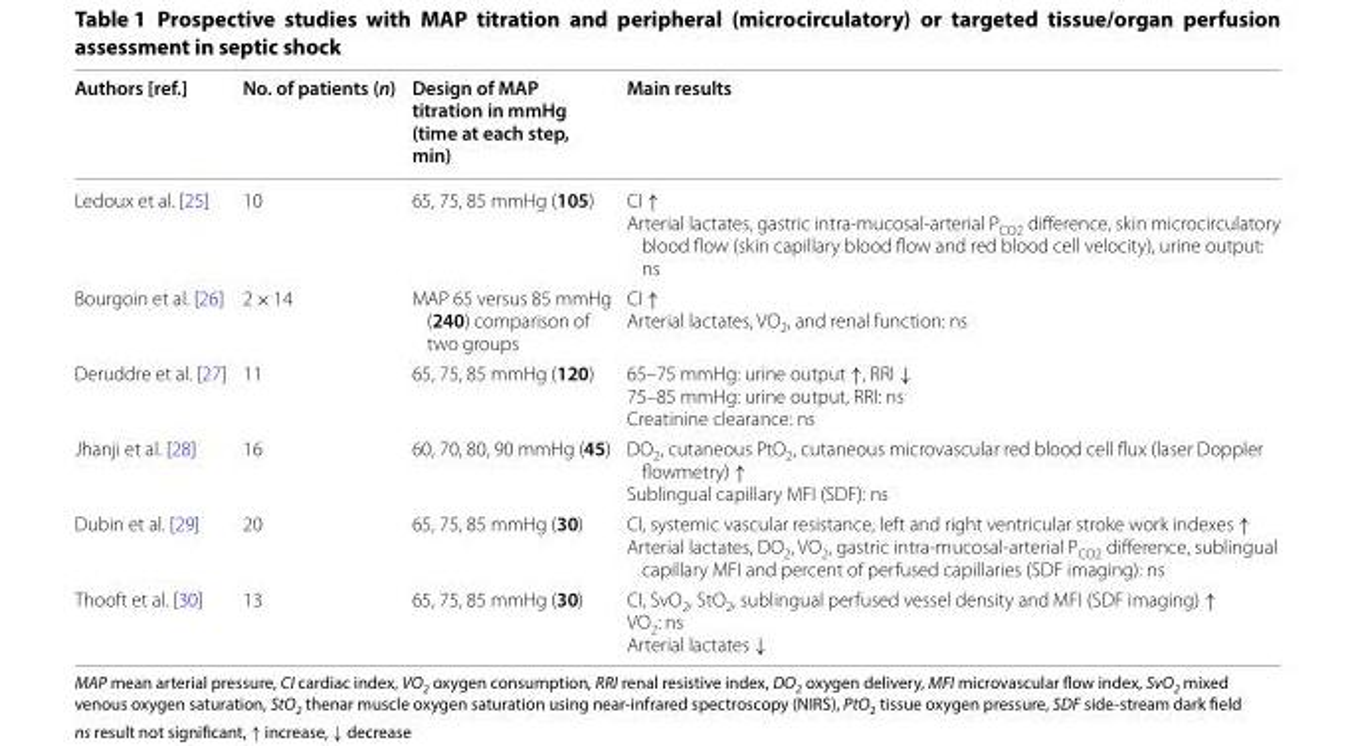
<table><thead><tr><td>Authors [ref.]</td><td>No. of patients (n)</td><td>Design of MAP titration in mmHg (time at each step, min)</td><td>Main results</td></tr></thead><tbody><tr><td>Ledoux et al. [25]</td><td>10</td><td>65, 75, 85 mmHg (105)</td><td>CI ↑ Arterial lactates, gastric intra-mucosal-arterial P<sub>CO2</sub> difference, skin microcirculatory blood flow (skin capillary blood flow and red blood cell velocity), urine output: ns</td></tr><tr><td>Bourgoin et al. [26]</td><td>2 × 14</td><td>MAP 65 versus 85 mmHg (240) comparison of two groups</td><td>CI ↑ Arterial lactates, VO<sub>2</sub>, and renal function: ns</td></tr><tr><td>Deruddre et al. [27]</td><td>11</td><td>65, 75, 85 mmHg (120)</td><td>65–75 mmHg: urine output ↑, RRI ↓ 75–85 mmHg: urine output, RRI: ns Creatinine clearance: ns</td></tr><tr><td>Jhanji et al. [28]</td><td>16</td><td>60, 70, 80, 90 mmHg (45)</td><td>DO<sub>2</sub>, cutaneous PtO<sub>2</sub>, cutaneous microvascular red blood cell flux (laser Doppler flowmetry) ↑ Sublingual capillary MFI (SDF): ns</td></tr><tr><td>Dubin et al. [29]</td><td>20</td><td>65, 75, 85 mmHg (30)</td><td>CI, systemic vascular resistance, left and right ventricular stroke work indexes ↑ Arterial lactates, DO<sub>2</sub>, VO<sub>2</sub>, gastric intra-mucosal-arterial P<sub>CO2</sub> difference, sublingual capillary MFI and percent of perfused capillaries (SDF imaging): ns</td></tr><tr><td>Thooft et al. [30]</td><td>13</td><td>65, 75, 85 mmHg (30)</td><td>CI, SvO<sub>2</sub>, StO<sub>2</sub>, sublingual perfused vessel density and MFI (SDF imaging) ↑ VO<sub>2</sub>: ns Arterial lactates ↓</td></tr></tbody></table>